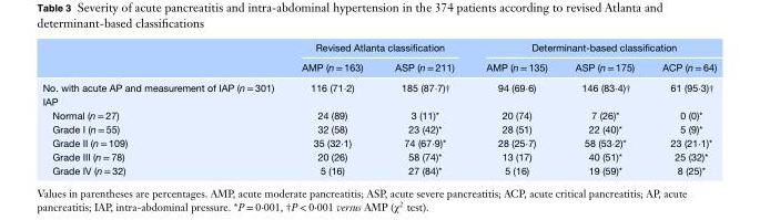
<table><thead><tr><td rowspan="2"></td><td colspan="2">Revised Atlanta classification</td><td colspan="3">Determinant-based classification</td></tr><tr><td>AMP (n = 163)</td><td>ASP (n = 211)</td><td>AMP (n = 135)</td><td>ASP (n = 175)</td><td>ACP (n = 64)</td></tr></thead><tbody><tr><td>No. with acute AP and measurement of IAP (n = 301)</td><td>116 (71⋅2)</td><td>185 (87⋅7)†</td><td>94 (69⋅6)</td><td>146 (83⋅4)†</td><td>61 (95⋅3)†</td></tr><tr><td colspan="6">IAP</td></tr><tr><td>Normal (n = 27)</td><td>24 (89)</td><td>3 (11)*</td><td>20 (74)</td><td>7 (26)*</td><td>0 (0)*</td></tr><tr><td>Grade I (n = 55)</td><td>32 (58)</td><td>23 (42)*</td><td>28 (51)</td><td>22 (40)*</td><td>5 (9)*</td></tr><tr><td>Grade II (n = 109)</td><td>35 (32⋅1)</td><td>74 (67⋅9)*</td><td>28 (25⋅7)</td><td>58 (53⋅2)*</td><td>23 (21⋅1)*</td></tr><tr><td>Grade III (n = 78)</td><td>20 (26)</td><td>58 (74)*</td><td>13 (17)</td><td>40 (51)*</td><td>25 (32)*</td></tr><tr><td>Grade IV (n = 32)</td><td>5 (16)</td><td>27 (84)*</td><td>5 (16)</td><td>19 (59)*</td><td>8 (25)*</td></tr></tbody></table>